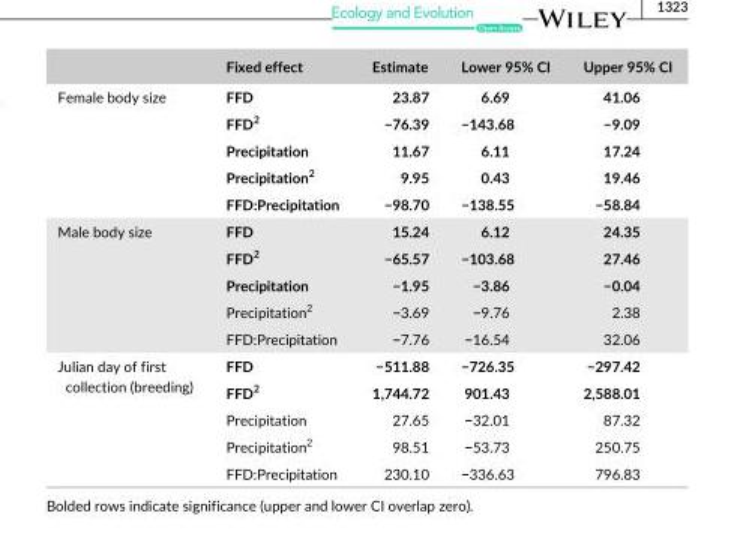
<table><thead><tr><td></td><td>Fixed effect</td><td>Estimate</td><td>Lower 95% CI</td><td>Upper 95% CI</td></tr></thead><tbody><tr><td rowspan="5">Female body size</td><td>FFD</td><td>23.87</td><td>6.69</td><td>41.06</td></tr><tr><td>FFD<sup>2</sup></td><td>−76.39</td><td>−143.68</td><td>−9.09</td></tr><tr><td>Precipitation</td><td>11.67</td><td>6.11</td><td>17.24</td></tr><tr><td>Precipitation<sup>2</sup></td><td>9.95</td><td>0.43</td><td>19.46</td></tr><tr><td>FFD:Precipitation</td><td>−98.70</td><td>−138.55</td><td>−58.84</td></tr><tr><td rowspan="5">Male body size</td><td>FFD</td><td>15.24</td><td>6.12</td><td>24.35</td></tr><tr><td>FFD<sup>2</sup></td><td>−65.57</td><td>−103.68</td><td>27.46</td></tr><tr><td>Precipitation</td><td>−1.95</td><td>−3.86</td><td>−0.04</td></tr><tr><td>Precipitation<sup>2</sup></td><td>−3.69</td><td>−9.76</td><td>2.38</td></tr><tr><td>FFD:Precipitation</td><td>−7.76</td><td>−16.54</td><td>32.06</td></tr><tr><td rowspan="5">Julian day of first collection (breeding)</td><td>FFD</td><td>−511.88</td><td>−726.35</td><td>−297.42</td></tr><tr><td>FFD<sup>2</sup></td><td>1,744.72</td><td>901.43</td><td>2,588.01</td></tr><tr><td>Precipitation</td><td>27.65</td><td>−32.01</td><td>87.32</td></tr><tr><td>Precipitation<sup>2</sup></td><td>98.51</td><td>−53.73</td><td>250.75</td></tr><tr><td>FFD:Precipitation</td><td>230.10</td><td>−336.63</td><td>796.83</td></tr></tbody></table>